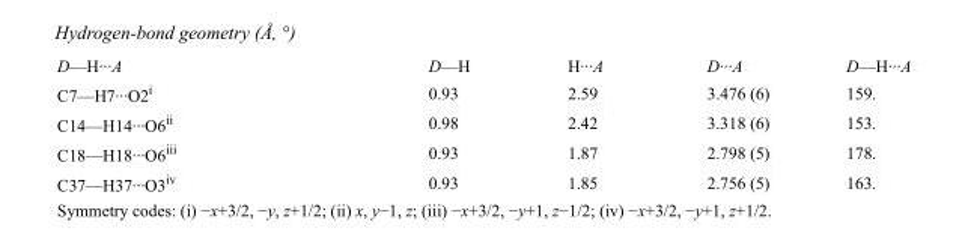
<table><tbody><tr><td>D—H···A</td><td>D—H</td><td>H···A</td><td>D···A</td><td>D—H···A</td></tr><tr><td>C7—H7···O2<sup>i</sup></td><td>0.93</td><td>2.59</td><td>3.476 (6)</td><td>159.</td></tr><tr><td>C14—H14···O6<sup>ii</sup></td><td>0.98</td><td>2.42</td><td>3.318 (6)</td><td>153.</td></tr><tr><td>C18—H18···O6<sup>iii</sup></td><td>0.93</td><td>1.87</td><td>2.798 (5)</td><td>178.</td></tr><tr><td>C37—H37···O3<sup>iv</sup></td><td>0.93</td><td>1.85</td><td>2.756 (5)</td><td>163.</td></tr></tbody></table>